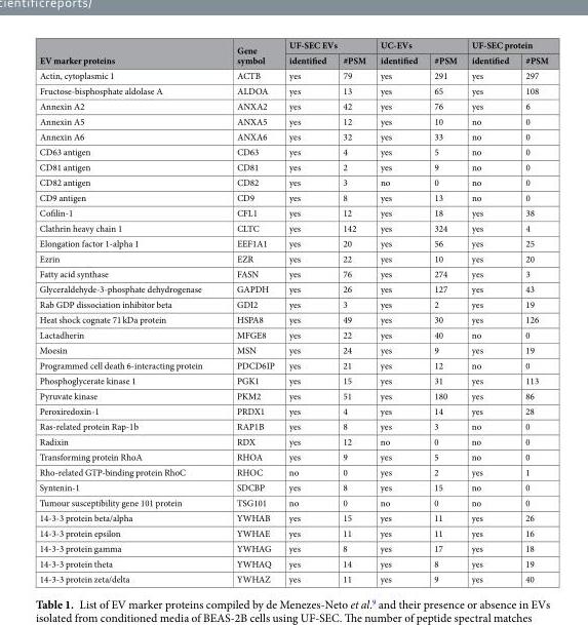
<table><thead><tr><td rowspan="2">EV marker proteins</td><td rowspan="2">Gene symbol</td><td colspan="2">UF-SEC EVs</td><td colspan="2">UC-EVs</td><td colspan="2">UF-SEC protein</td></tr><tr><td>identified</td><td>#PSM</td><td>identified</td><td>#PSM</td><td>identified</td><td>#PSM</td></tr></thead><tbody><tr><td>Actin, cytoplasmic 1</td><td>ACTB</td><td>yes</td><td>79</td><td>yes</td><td>291</td><td>yes</td><td>297</td></tr><tr><td>Fructose-bisphosphate aldolase A</td><td>ALDOA</td><td>yes</td><td>13</td><td>yes</td><td>65</td><td>yes</td><td>108</td></tr><tr><td>Annexin A2</td><td>ANXA2</td><td>yes</td><td>42</td><td>yes</td><td>76</td><td>yes</td><td>6</td></tr><tr><td>Annexin A5</td><td>ANXA5</td><td>yes</td><td>12</td><td>yes</td><td>10</td><td>no</td><td>0</td></tr><tr><td>Annexin A6</td><td>ANXA6</td><td>yes</td><td>32</td><td>yes</td><td>33</td><td>no</td><td>0</td></tr><tr><td>CD63 antigen</td><td>CD63</td><td>yes</td><td>4</td><td>yes</td><td>5</td><td>no</td><td>0</td></tr><tr><td>CD81 antigen</td><td>CD81</td><td>yes</td><td>2</td><td>yes</td><td>9</td><td>no</td><td>0</td></tr><tr><td>CD82 antigen</td><td>CD82</td><td>yes</td><td>3</td><td>no</td><td>0</td><td>no</td><td>0</td></tr><tr><td>CD9 antigen</td><td>CD9</td><td>yes</td><td>8</td><td>yes</td><td>13</td><td>no</td><td>0</td></tr><tr><td>Cofilin-1</td><td>CFL1</td><td>yes</td><td>12</td><td>yes</td><td>18</td><td>yes</td><td>38</td></tr><tr><td>Clathrin heavy chain 1</td><td>CLTC</td><td>yes</td><td>142</td><td>yes</td><td>324</td><td>yes</td><td>4</td></tr><tr><td>Elongation factor 1-alpha 1</td><td>EEF1A1</td><td>yes</td><td>20</td><td>yes</td><td>56</td><td>yes</td><td>25</td></tr><tr><td>Ezrin</td><td>EZR</td><td>yes</td><td>22</td><td>yes</td><td>10</td><td>yes</td><td>20</td></tr><tr><td>Fatty acid synthase</td><td>FASN</td><td>yes</td><td>76</td><td>yes</td><td>274</td><td>yes</td><td>3</td></tr><tr><td>Glyceraldehyde-3-phosphate dehydrogenase</td><td>GAPDH</td><td>yes</td><td>26</td><td>yes</td><td>127</td><td>yes</td><td>43</td></tr><tr><td>Rab GDP dissociation inhibitor beta</td><td>GDI2</td><td>yes</td><td>3</td><td>yes</td><td>2</td><td>yes</td><td>19</td></tr><tr><td>Heat shock cognate 71 kDa protein</td><td>HSPA8</td><td>yes</td><td>49</td><td>yes</td><td>30</td><td>yes</td><td>126</td></tr><tr><td>Lactadherin</td><td>MFGE8</td><td>yes</td><td>22</td><td>yes</td><td>40</td><td>no</td><td>0</td></tr><tr><td>Moesin</td><td>MSN</td><td>yes</td><td>24</td><td>yes</td><td>9</td><td>yes</td><td>19</td></tr><tr><td>Programmed cell death 6-interacting protein</td><td>PDCD6IP</td><td>yes</td><td>21</td><td>yes</td><td>12</td><td>no</td><td>0</td></tr><tr><td>Phosphoglycerate kinase 1</td><td>PGK1</td><td>yes</td><td>15</td><td>yes</td><td>31</td><td>yes</td><td>113</td></tr><tr><td>Pyruvate kinase</td><td>PKM2</td><td>yes</td><td>51</td><td>yes</td><td>180</td><td>yes</td><td>86</td></tr><tr><td>Peroxiredoxin-1</td><td>PRDX1</td><td>yes</td><td>4</td><td>yes</td><td>14</td><td>yes</td><td>28</td></tr><tr><td>Ras-related protein Rap-1b</td><td>RAP1B</td><td>yes</td><td>8</td><td>yes</td><td>3</td><td>no</td><td>0</td></tr><tr><td>Radixin</td><td>RDX</td><td>yes</td><td>12</td><td>no</td><td>0</td><td>no</td><td>0</td></tr><tr><td>Transforming protein RhoA</td><td>RHOA</td><td>yes</td><td>9</td><td>yes</td><td>5</td><td>no</td><td>0</td></tr><tr><td>Rho-related GTP-binding protein RhoC</td><td>RHOC</td><td>no</td><td>0</td><td>yes</td><td>2</td><td>yes</td><td>1</td></tr><tr><td>Syntenin-1</td><td>SDCBP</td><td>yes</td><td>8</td><td>yes</td><td>15</td><td>no</td><td>0</td></tr><tr><td>Tumour susceptibility gene 101 protein</td><td>TSG101</td><td>no</td><td>0</td><td>no</td><td>0</td><td>no</td><td>0</td></tr><tr><td>14-3-3 protein beta/alpha</td><td>YWHAB</td><td>yes</td><td>15</td><td>yes</td><td>11</td><td>yes</td><td>26</td></tr><tr><td>14-3-3 protein epsilon</td><td>YWHAE</td><td>yes</td><td>11</td><td>yes</td><td>11</td><td>yes</td><td>16</td></tr><tr><td>14-3-3 protein gamma</td><td>YWHAG</td><td>yes</td><td>8</td><td>yes</td><td>17</td><td>yes</td><td>18</td></tr><tr><td>14-3-3 protein theta</td><td>YWHAQ</td><td>yes</td><td>14</td><td>yes</td><td>8</td><td>yes</td><td>19</td></tr><tr><td>14-3-3 protein zeta/delta</td><td>YWHAZ</td><td>yes</td><td>11</td><td>yes</td><td>9</td><td>yes</td><td>40</td></tr></tbody></table>